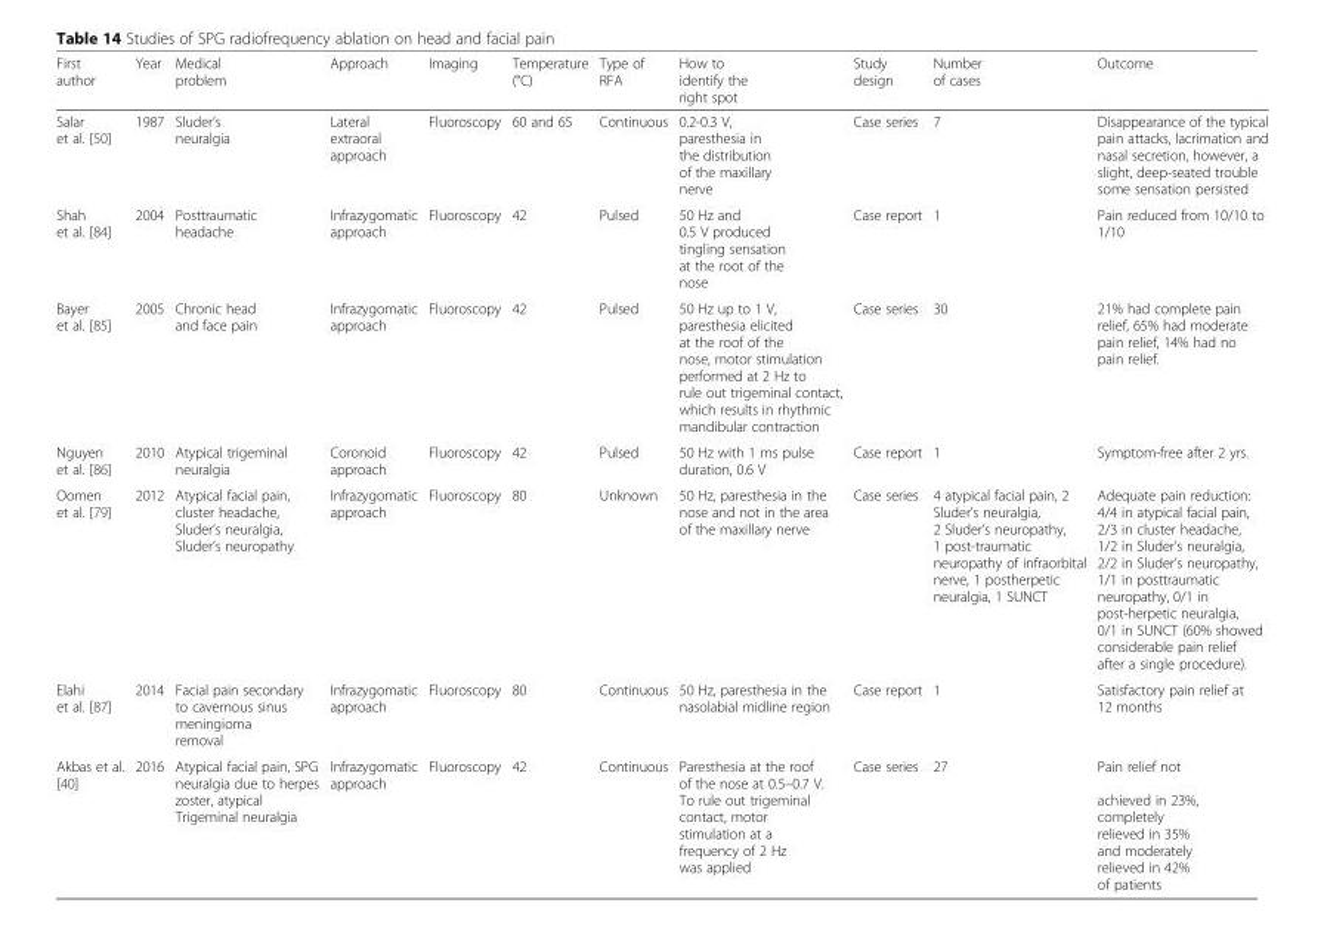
<table><thead><tr><td>First author</td><td>Year</td><td>Medical problem</td><td>Approach</td><td>Imaging</td><td>Temperature (°C)</td><td>Type of RFA</td><td>How to identify the right spot</td><td>Study design</td><td>Number of cases</td><td>Outcome</td></tr></thead><tbody><tr><td>Salar et al. [50]</td><td>1987</td><td>Sluder’s neuralgia</td><td>Lateral extraoral approach</td><td>Fluoroscopy</td><td>60 and 65</td><td>Continuous</td><td>0.2-0.3 V, paresthesia in the distribution of the maxillary nerve</td><td>Case series</td><td>7</td><td>Disappearance of the typical pain attacks, lacrimation and nasal secretion, however, a slight, deep-seated trouble some sensation persisted</td></tr><tr><td>Shah et al. [84]</td><td>2004</td><td>Posttraumatic headache</td><td>Infrazygomatic approach</td><td>Fluoroscopy</td><td>42</td><td>Pulsed</td><td>50 Hz and 0.5 V produced tingling sensation at the root of the nose</td><td>Case report</td><td>1</td><td>Pain reduced from 10/10 to 1/10</td></tr><tr><td>Bayer et al. [85]</td><td>2005</td><td>Chronic head and face pain</td><td>Infrazygomatic approach</td><td>Fluoroscopy</td><td>42</td><td>Pulsed</td><td>50 Hz up to 1 V, paresthesia elicited at the roof of the nose, motor stimulation performed at 2 Hz to rule out trigeminal contact, which results in rhythmic mandibular contraction</td><td>Case series</td><td>30</td><td>21% had complete pain relief, 65% had moderate pain relief, 14% had no pain relief.</td></tr><tr><td>Nguyen et al. [86]</td><td>2010</td><td>Atypical trigeminal neuralgia</td><td>Coronoid approach</td><td>Fluoroscopy</td><td>42</td><td>Pulsed</td><td>50 Hz with 1 ms pulse duration, 0.6 V</td><td>Case report</td><td>1</td><td>Symptom-free after 2 yrs.</td></tr><tr><td>Oomen et al. [79]</td><td>2012</td><td>Atypical facial pain, cluster headache, Sluder’s neuralgia, Sluder’s neuropathy</td><td>Infrazygomatic approach</td><td>Fluoroscopy</td><td>80</td><td>Unknown</td><td>50 Hz, paresthesia in the nose and not in the area of the maxillary nerve</td><td>Case series</td><td>4 atypical facial pain, 2 Sluder’s neuralgia, 2 Sluder’s neuropathy, 1 post-traumatic neuropathy of infraorbital nerve, 1 postherpetic neuralgia, 1 SUNCT</td><td>Adequate pain reduction: 4/4 in atypical facial pain, 2/3 in cluster headache, 1/2 in Sluder’s neuralgia, 2/2 in Sluder’s neuropathy, 1/1 in posttraumatic neuropathy, 0/1 in post-herpetic neuralgia, 0/1 in SUNCT (60% showed considerable pain relief after a single procedure).</td></tr><tr><td>Elahi et al. [87]</td><td>2014</td><td>Facial pain secondary to cavernous sinus meningioma removal</td><td>Infrazygomatic approach</td><td>Fluoroscopy</td><td>80</td><td>Continuous</td><td>50 Hz, paresthesia in the nasolabial midline region</td><td>Case report</td><td>1</td><td>Satisfactory pain relief at 12 months</td></tr><tr><td>Akbas et al. [40]</td><td>2016</td><td>Atypical facial pain, SPG neuralgia due to herpes zoster, atypical Trigeminal neuralgia</td><td>Infrazygomatic approach</td><td>Fluoroscopy</td><td>42</td><td>Continuous</td><td>Paresthesia at the roof of the nose at 0.5–0.7 V. To rule out trigeminal contact, motor stimulation at a frequency of 2 Hz was applied</td><td>Case series</td><td>27</td><td>Pain relief not achieved in 23%, completely relieved in 35% and moderately relieved in 42% of patients</td></tr></tbody></table>